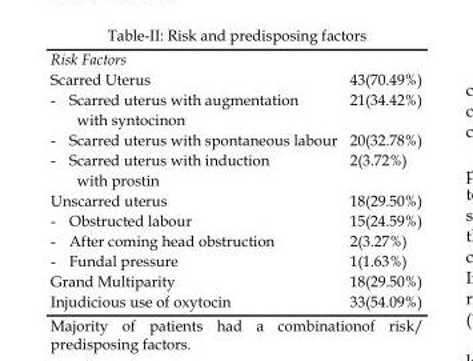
<table><thead><tr><td>Risk Factors</td><td></td></tr></thead><tbody><tr><td>Scarred Uterus</td><td>43(70.49%)</td></tr><tr><td>- Scarred uterus with augmentation with syntocinon</td><td>21(34.42%)</td></tr><tr><td>- Scarred uterus with spontaneous labour</td><td>20(32.78%)</td></tr><tr><td>- Scarred uterus with induction with prostin</td><td>2(3.72%)</td></tr><tr><td>Unscarred uterus</td><td>18(29.50%)</td></tr><tr><td>- Obstructed labour</td><td>15(24.59%)</td></tr><tr><td>- After coming head obstruction</td><td>2(3.27%)</td></tr><tr><td>- Fundal pressure</td><td>1(1.63%)</td></tr><tr><td>Grand Multiparity</td><td>18(29.50%)</td></tr><tr><td>Injudicious use of oxytocin</td><td>33(54.09%)</td></tr></tbody></table>